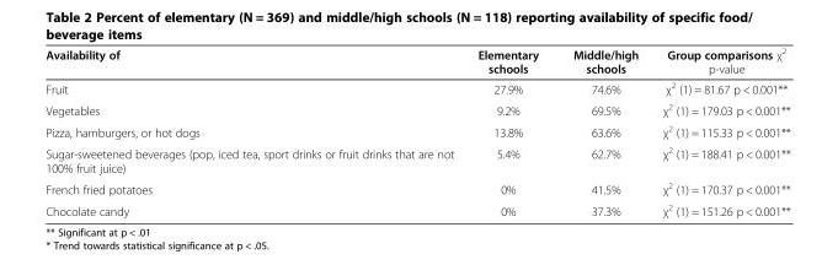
<table><thead><tr><td>Availability of</td><td>Elementary schools</td><td>Middle/high schools</td><td>Group comparisons χ<sup>2</sup> p-value</td></tr></thead><tbody><tr><td>Fruit</td><td>27.9%</td><td>74.6%</td><td>χ<sup>2</sup> (1) = 81.67 p &lt; 0.001**</td></tr><tr><td>Vegetables</td><td>9.2%</td><td>69.5%</td><td>χ<sup>2</sup> (1) = 179.03 p &lt; 0.001**</td></tr><tr><td>Pizza, hamburgers, or hot dogs</td><td>13.8%</td><td>63.6%</td><td>χ<sup>2</sup> (1) = 115.33 p &lt; 0.001**</td></tr><tr><td>Sugar-sweetened beverages (pop, iced tea, sport drinks or fruit drinks that are not 100% fruit juice)</td><td>5.4%</td><td>62.7%</td><td>χ<sup>2</sup> (1) = 188.41 p &lt; 0.001**</td></tr><tr><td>French fried potatoes</td><td>0%</td><td>41.5%</td><td>χ<sup>2</sup> (1) = 170.37 p &lt; 0.001**</td></tr><tr><td>Chocolate candy</td><td>0%</td><td>37.3%</td><td>χ<sup>2</sup> (1) = 151.26 p &lt; 0.001**</td></tr></tbody></table>